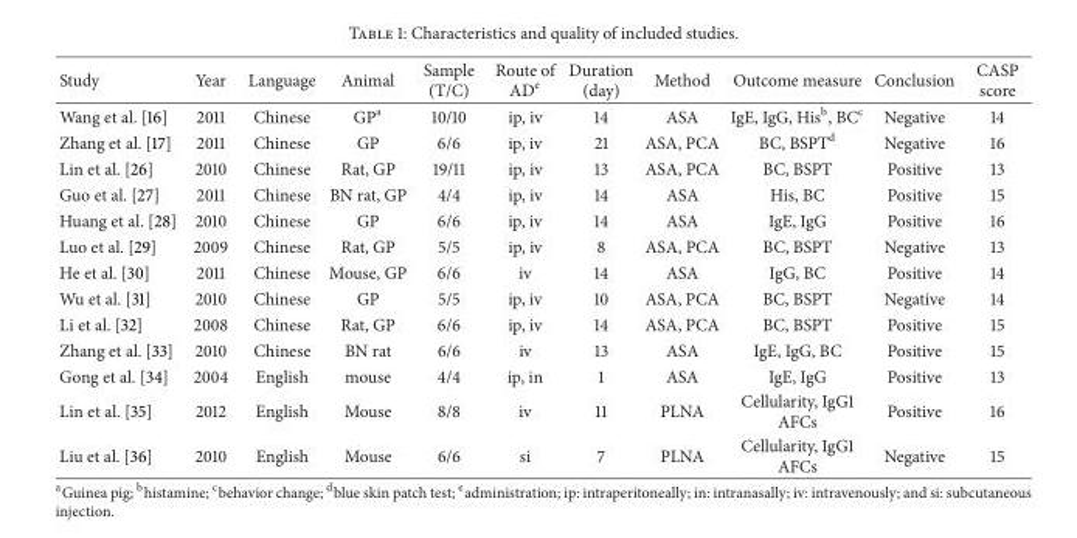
<table><thead><tr><td>Study</td><td>Year</td><td>Language</td><td>Animal</td><td>Sample (T/C)</td><td>Route of AD<sup>e</sup></td><td>Duration (day)</td><td>Method</td><td>Outcome measure</td><td>Conclusion</td><td>CASP score</td></tr></thead><tbody><tr><td>Wang et al. [16]</td><td>2011</td><td>Chinese</td><td>GP<sup>a</sup></td><td>10/10</td><td>ip, iv</td><td>14</td><td>ASA</td><td>IgE, IgG, His<sup>b</sup>, BC<sup>c</sup></td><td>Negative</td><td>14</td></tr><tr><td>Zhang et al. [17]</td><td>2011</td><td>Chinese</td><td>GP</td><td>6/6</td><td>ip, iv</td><td>21</td><td>ASA, PCA</td><td>BC, BSPT<sup>d</sup></td><td>Negative</td><td>16</td></tr><tr><td>Lin et al. [26]</td><td>2010</td><td>Chinese</td><td>Rat, GP</td><td>19/11</td><td>ip, iv</td><td>13</td><td>ASA, PCA</td><td>BC, BSPT</td><td>Positive</td><td>13</td></tr><tr><td>Guo et al. [27]</td><td>2011</td><td>Chinese</td><td>BN rat, GP</td><td>4/4</td><td>ip, iv</td><td>14</td><td>ASA</td><td>His, BC</td><td>Positive</td><td>15</td></tr><tr><td>Huang et al. [28]</td><td>2010</td><td>Chinese</td><td>GP</td><td>6/6</td><td>ip, iv</td><td>14</td><td>ASA</td><td>IgE, IgG</td><td>Positive</td><td>16</td></tr><tr><td>Luo et al. [29]</td><td>2009</td><td>Chinese</td><td>Rat, GP</td><td>5/5</td><td>ip, iv</td><td>8</td><td>ASA, PCA</td><td>BC, BSPT</td><td>Negative</td><td>13</td></tr><tr><td>He et al. [30]</td><td>2011</td><td>Chinese</td><td>Mouse, GP</td><td>6/6</td><td>iv</td><td>14</td><td>ASA</td><td>IgG, BC</td><td>Positive</td><td>14</td></tr><tr><td>Wu et al. [31]</td><td>2010</td><td>Chinese</td><td>GP</td><td>5/5</td><td>ip, iv</td><td>10</td><td>ASA, PCA</td><td>BC, BSPT</td><td>Negative</td><td>14</td></tr><tr><td>Li et al. [32]</td><td>2008</td><td>Chinese</td><td>Rat, GP</td><td>6/6</td><td>ip, iv</td><td>14</td><td>ASA, PCA</td><td>BC, BSPT</td><td>Positive</td><td>15</td></tr><tr><td>Zhang et al. [33]</td><td>2010</td><td>Chinese</td><td>BN rat</td><td>6/6</td><td>iv</td><td>13</td><td>ASA</td><td>IgE, IgG, BC</td><td>Positive</td><td>15</td></tr><tr><td>Gong et al. [34]</td><td>2004</td><td>English</td><td>mouse</td><td>4/4</td><td>ip, in</td><td>1</td><td>ASA</td><td>IgE, IgG</td><td>Positive</td><td>13</td></tr><tr><td>Lin et al. [35]</td><td>2012</td><td>English</td><td>Mouse</td><td>8/8</td><td>iv</td><td>11</td><td>PLNA</td><td>Cellularity, IgG1 AFCs</td><td>Positive</td><td>16</td></tr><tr><td>Liu et al. [36]</td><td>2010</td><td>English</td><td>Mouse</td><td>6/6</td><td>si</td><td>7</td><td>PLNA</td><td>Cellularity, IgG1 AFCs</td><td>Negative</td><td>15</td></tr></tbody></table>